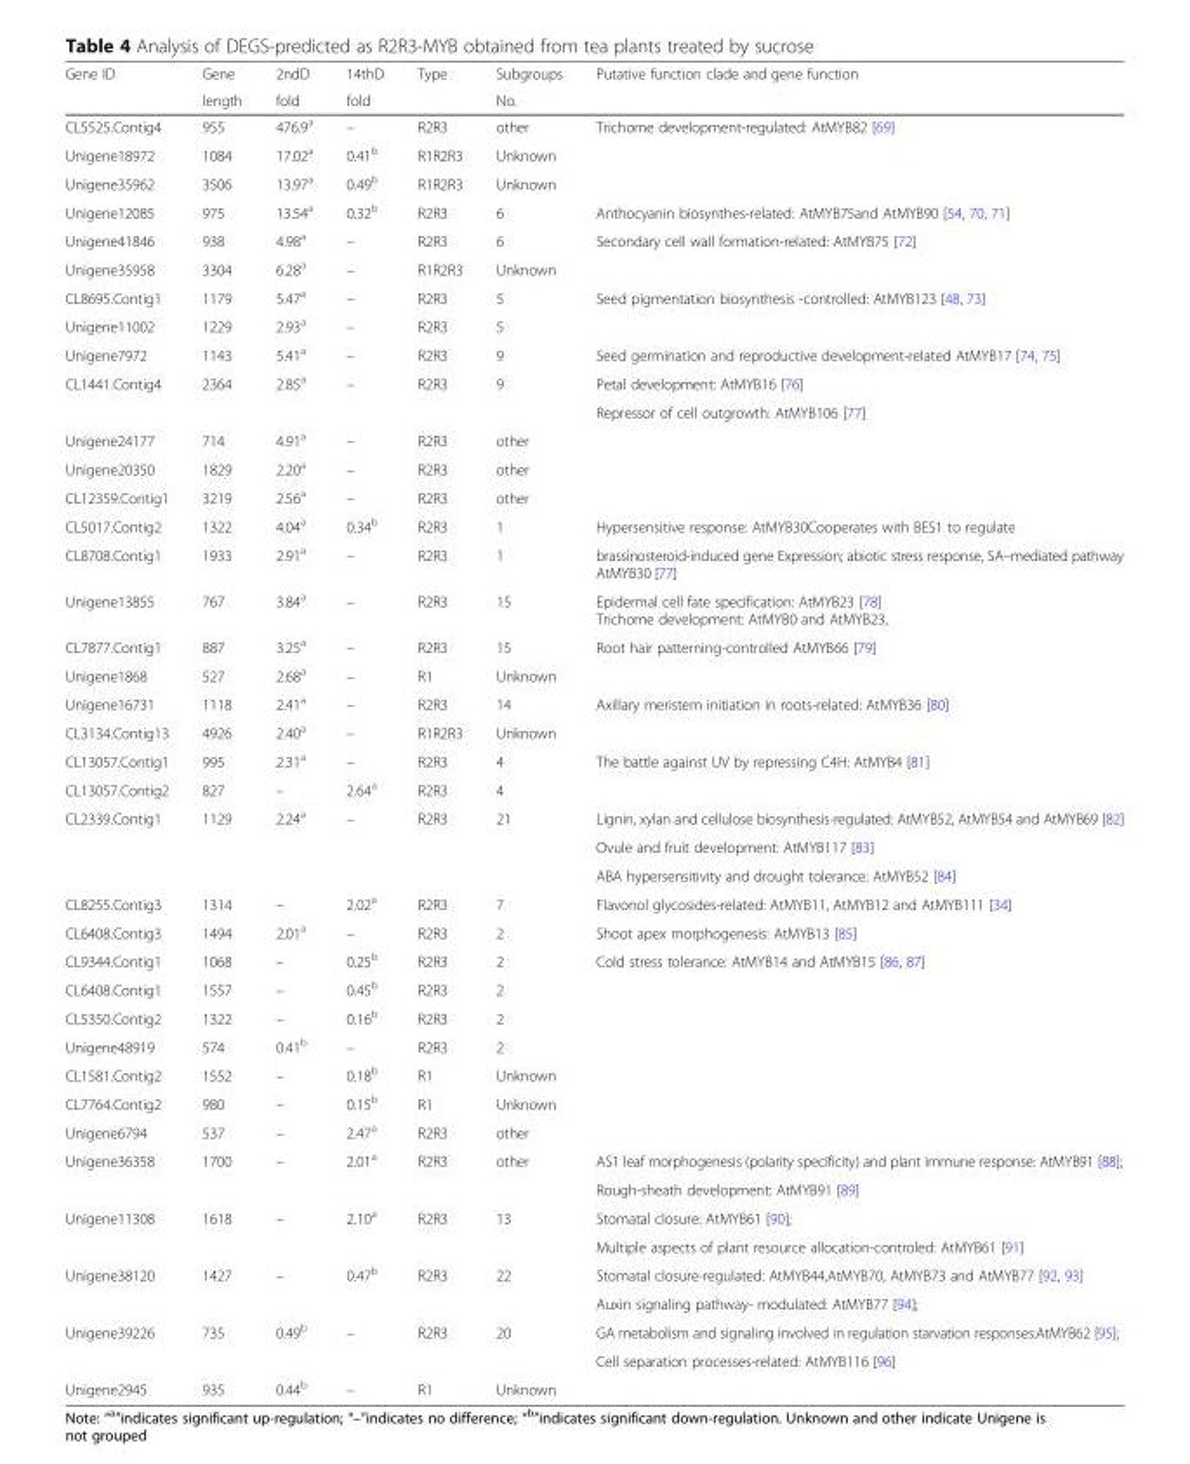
<table><thead><tr><td rowspan="2">Gene ID</td><td rowspan="2">Gene length</td><td rowspan="2">2ndD fold</td><td rowspan="2">14thD fold</td><td rowspan="2">Type</td><td rowspan="2">Subgroups No.</td><td rowspan="2">Putative function clade and gene function</td></tr><tr></tr></thead><tbody><tr><td>CL5525.Contig4</td><td>955</td><td>476.9<sup>a</sup></td><td>–</td><td>R2R3</td><td>other</td><td>Trichome development-regulated: AtMYB82 [69]</td></tr><tr><td>Unigene18972</td><td>1084</td><td>17.02<sup>a</sup></td><td>0.41<sup>b</sup></td><td>R1R2R3</td><td>Unknown</td><td rowspan="2"></td></tr><tr><td>Unigene35962</td><td>3506</td><td>13.97<sup>a</sup></td><td>0.49<sup>b</sup></td><td>R1R2R3</td><td>Unknown</td></tr><tr><td>Unigene12085</td><td>975</td><td>13.54<sup>a</sup></td><td>0.32<sup>b</sup></td><td>R2R3</td><td>6</td><td>Anthocyanin biosynthes-related: AtMYB75and AtMYB90 [54, 70, 71]</td></tr><tr><td>Unigene41846</td><td>938</td><td>4.98<sup>a</sup></td><td>–</td><td>R2R3</td><td>6</td><td>Secondary cell wall formation-related: AtMYB75 [72]</td></tr><tr><td>Unigene35958</td><td>3304</td><td>6.28<sup>a</sup></td><td>–</td><td>R1R2R3</td><td>Unknown</td><td></td></tr><tr><td>CL8695.Contig1</td><td>1179</td><td>5.47<sup>a</sup></td><td>–</td><td>R2R3</td><td>5</td><td>Seed pigmentation biosynthesis -controlled: AtMYB123 [48, 73]</td></tr><tr><td>Unigene11002</td><td>1229</td><td>2.93<sup>a</sup></td><td>–</td><td>R2R3</td><td>5</td><td></td></tr><tr><td>Unigene7972</td><td>1143</td><td>5.41<sup>a</sup></td><td>–</td><td>R2R3</td><td>9</td><td>Seed germination and reproductive development-related AtMYB17 [74, 75]</td></tr><tr><td>CL1441.Contig4</td><td>2364</td><td>2.85<sup>a</sup></td><td>–</td><td>R2R3</td><td>9</td><td>Petal development: AtMYB16 [76]</td></tr><tr><td colspan="6"></td><td>Repressor of cell outgrowth: AtMYB106 [77]</td></tr><tr><td>Unigene24177</td><td>714</td><td>4.91<sup>a</sup></td><td>–</td><td>R2R3</td><td>other</td><td rowspan="3"></td></tr><tr><td>Unigene20350</td><td>1829</td><td>2.20<sup>a</sup></td><td>–</td><td>R2R3</td><td>other</td></tr><tr><td>CL12359.Contig1</td><td>3219</td><td>2.56<sup>a</sup></td><td>–</td><td>R2R3</td><td>other</td></tr><tr><td>CL5017.Contig2</td><td>1322</td><td>4.04<sup>a</sup></td><td>0.34<sup>b</sup></td><td>R2R3</td><td>1</td><td>Hypersensitive response: AtMYB30Cooperates with BES1 to regulate</td></tr><tr><td>CL8708.Contig1</td><td>1933</td><td>2.91<sup>a</sup></td><td>–</td><td>R2R3</td><td>1</td><td>brassinosteroid-induced gene Expression; abiotic stress response, SA–mediated pathway AtMYB30 [77]</td></tr><tr><td>Unigene13855</td><td>767</td><td>3.84<sup>a</sup></td><td>–</td><td>R2R3</td><td>15</td><td>Epidermal cell fate specification: AtMYB23 [78] Trichome development: AtMYB0 and AtMYB23,</td></tr><tr><td>CL7877.Contig1</td><td>887</td><td>3.25<sup>a</sup></td><td>–</td><td>R2R3</td><td>15</td><td>Root hair patterning-controlled AtMYB66 [79]</td></tr><tr><td>Unigene1868</td><td>527</td><td>2.68<sup>a</sup></td><td>–</td><td>R1</td><td>Unknown</td><td></td></tr><tr><td>Unigene16731</td><td>1118</td><td>2.41<sup>a</sup></td><td>–</td><td>R2R3</td><td>14</td><td>Axillary meristem initiation in roots-related: AtMYB36 [80]</td></tr><tr><td>CL3134.Contig13</td><td>4926</td><td>2.40<sup>a</sup></td><td>–</td><td>R1R2R3</td><td>Unknown</td><td></td></tr><tr><td>CL13057.Contig1</td><td>995</td><td>2.31<sup>a</sup></td><td>–</td><td>R2R3</td><td>4</td><td>The battle against UV by repressing C4H: AtMYB4 [81]</td></tr><tr><td>CL13057.Contig2</td><td>827</td><td>–</td><td>2.64<sup>a</sup></td><td>R2R3</td><td>4</td><td></td></tr><tr><td>CL2339.Contig1</td><td>1129</td><td>2.24<sup>a</sup></td><td>–</td><td>R2R3</td><td>21</td><td>Lignin, xylan and cellulose biosynthesis-regulated: AtMYB52, AtMYB54 and AtMYB69 [82]</td></tr><tr><td rowspan="2" colspan="6"></td><td>Ovule and fruit development: AtMYB117 [83]</td></tr><tr><td>ABA hypersensitivity and drought tolerance: AtMYB52 [84]</td></tr><tr><td>CL8255.Contig3</td><td>1314</td><td>–</td><td>2.02<sup>a</sup></td><td>R2R3</td><td>7</td><td>Flavonol glycosides-related: AtMYB11, AtMYB12 and AtMYB111 [34]</td></tr><tr><td>CL6408.Contig3</td><td>1494</td><td>2.01<sup>a</sup></td><td>–</td><td>R2R3</td><td>2</td><td>Shoot apex morphogenesis: AtMYB13 [85]</td></tr><tr><td>CL9344.Contig1</td><td>1068</td><td>–</td><td>0.25<sup>b</sup></td><td>R2R3</td><td>2</td><td>Cold stress tolerance: AtMYB14 and AtMYB15 [86, 87]</td></tr><tr><td>CL6408.Contig1</td><td>1557</td><td>–</td><td>0.45<sup>b</sup></td><td>R2R3</td><td>2</td><td rowspan="6"></td></tr><tr><td>CL5350.Contig2</td><td>1322</td><td>–</td><td>0.16<sup>b</sup></td><td>R2R3</td><td>2</td></tr><tr><td>Unigene48919</td><td>574</td><td>0.41<sup>b</sup></td><td>–</td><td>R2R3</td><td>2</td></tr><tr><td>CL1581.Contig2</td><td>1552</td><td>–</td><td>0.18<sup>b</sup></td><td>R1</td><td>Unknown</td></tr><tr><td>CL7764.Contig2</td><td>980</td><td>–</td><td>0.15<sup>b</sup></td><td>R1</td><td>Unknown</td></tr><tr><td>Unigene6794</td><td>537</td><td>–</td><td>2.47<sup>a</sup></td><td>R2R3</td><td>other</td></tr><tr><td>Unigene36358</td><td>1700</td><td>–</td><td>2.01<sup>a</sup></td><td>R2R3</td><td>other</td><td>AS1 leaf morphogenesis (polarity specificity) and plant immune response: AtMYB91 [88];</td></tr><tr><td colspan="6"></td><td>Rough-sheath development: AtMYB91 [89]</td></tr><tr><td>Unigene11308</td><td>1618</td><td>–</td><td>2.10<sup>a</sup></td><td>R2R3</td><td>13</td><td>Stomatal closure: AtMYB61 [90];</td></tr><tr><td colspan="6"></td><td>Multiple aspects of plant resource allocation-controled: AtMYB61 [91]</td></tr><tr><td>Unigene38120</td><td>1427</td><td>–</td><td>0.47<sup>b</sup></td><td>R2R3</td><td>22</td><td>Stomatal closure-regulated: AtMYB44,AtMYB70, AtMYB73 and AtMYB77 [92, 93]</td></tr><tr><td colspan="6"></td><td>Auxin signaling pathway- modulated: AtMYB77 [94];</td></tr><tr><td>Unigene39226</td><td>735</td><td>0.49<sup>b</sup></td><td>–</td><td>R2R3</td><td>20</td><td>GA metabolism and signaling involved in regulation starvation responses:AtMYB62 [95];</td></tr><tr><td colspan="6"></td><td>Cell separation processes-related: AtMYB116 [96]</td></tr><tr><td>Unigene2945</td><td>935</td><td>0.44<sup>b</sup></td><td>–</td><td>R1</td><td>Unknown</td><td></td></tr></tbody></table>